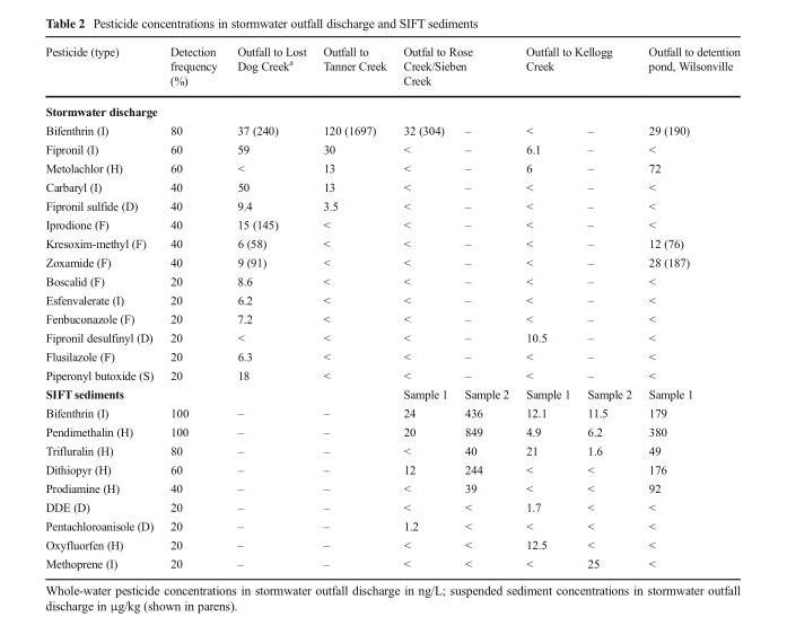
<table><thead><tr><td>Pesticide (type)</td><td>Detection frequency (%)</td><td>Outfall to Lost Dog Creek<sup>a</sup></td><td>Outfall to Tanner Creek</td><td colspan="2">Outfal to Rose Creek/Sieben Creek</td><td colspan="2">Outfall to Kellogg Creek</td><td>Outfall to detention pond, Wilsonville</td></tr><tr><td colspan="9">Stormwater discharge</td></tr><tr><td>Bifenthrin (I)</td><td>80</td><td>37 (240)</td><td>120 (1697)</td><td>32 (304)</td><td>–</td><td>&lt;</td><td>–</td><td>29 (190)</td></tr></thead><tbody><tr><td>Fipronil (I)</td><td>60</td><td>59</td><td>30</td><td>&lt;</td><td>–</td><td>6.1</td><td>–</td><td>&lt;</td></tr><tr><td>Metolachlor (H)</td><td>60</td><td>&lt;</td><td>13</td><td>&lt;</td><td>–</td><td>6</td><td>–</td><td>72</td></tr><tr><td>Carbaryl (I)</td><td>40</td><td>50</td><td>13</td><td>&lt;</td><td>–</td><td>&lt;</td><td>–</td><td>&lt;</td></tr><tr><td>Fipronil sulfide (D)</td><td>40</td><td>9.4</td><td>3.5</td><td>&lt;</td><td>–</td><td>&lt;</td><td>–</td><td>&lt;</td></tr><tr><td>Iprodione (F)</td><td>40</td><td>15 (145)</td><td>&lt;</td><td>&lt;</td><td>–</td><td>&lt;</td><td>–</td><td>&lt;</td></tr><tr><td>Kresoxim-methyl (F)</td><td>40</td><td>6 (58)</td><td>&lt;</td><td>&lt;</td><td>–</td><td>&lt;</td><td>–</td><td>12 (76)</td></tr><tr><td>Zoxamide (F)</td><td>40</td><td>9 (91)</td><td>&lt;</td><td>&lt;</td><td>–</td><td>&lt;</td><td>–</td><td>28 (187)</td></tr><tr><td>Boscalid (F)</td><td>20</td><td>8.6</td><td>&lt;</td><td>&lt;</td><td>–</td><td>&lt;</td><td>–</td><td>&lt;</td></tr><tr><td>Esfenvalerate (I)</td><td>20</td><td>6.2</td><td>&lt;</td><td>&lt;</td><td>–</td><td>&lt;</td><td>–</td><td>&lt;</td></tr><tr><td>Fenbuconazole (F)</td><td>20</td><td>7.2</td><td>&lt;</td><td>&lt;</td><td>–</td><td>&lt;</td><td>–</td><td>&lt;</td></tr><tr><td>Fipronil desulfinyl (D)</td><td>20</td><td>&lt;</td><td>&lt;</td><td>&lt;</td><td>–</td><td>10.5</td><td>–</td><td>&lt;</td></tr><tr><td>Flusilazole (F)</td><td>20</td><td>6.3</td><td>&lt;</td><td>&lt;</td><td>–</td><td>&lt;</td><td>–</td><td>&lt;</td></tr><tr><td>Piperonyl butoxide (S)</td><td>20</td><td>18</td><td>&lt;</td><td>&lt;</td><td>–</td><td>&lt;</td><td>–</td><td>&lt;</td></tr><tr><td>SIFT sediments</td><td></td><td></td><td></td><td>Sample 1</td><td>Sample 2</td><td>Sample 1</td><td>Sample 2</td><td>Sample 1</td></tr><tr><td>Bifenthrin (I)</td><td>100</td><td>–</td><td>–</td><td>24</td><td>436</td><td>12.1</td><td>11.5</td><td>179</td></tr><tr><td>Pendimethalin (H)</td><td>100</td><td>–</td><td>–</td><td>20</td><td>849</td><td>4.9</td><td>6.2</td><td>380</td></tr><tr><td>Trifluralin (H)</td><td>80</td><td>–</td><td>–</td><td>&lt;</td><td>40</td><td>21</td><td>1.6</td><td>49</td></tr><tr><td>Dithiopyr (H)</td><td>60</td><td>–</td><td>–</td><td>12</td><td>244</td><td>&lt;</td><td>&lt;</td><td>176</td></tr><tr><td>Prodiamine (H)</td><td>40</td><td>–</td><td>–</td><td>&lt;</td><td>39</td><td>&lt;</td><td>&lt;</td><td>92</td></tr><tr><td>DDE (D)</td><td>20</td><td>–</td><td>–</td><td>&lt;</td><td>&lt;</td><td>1.7</td><td>&lt;</td><td>&lt;</td></tr><tr><td>Pentachloroanisole (D)</td><td>20</td><td>–</td><td>–</td><td>1.2</td><td>&lt;</td><td>&lt;</td><td>&lt;</td><td>&lt;</td></tr><tr><td>Oxyfluorfen (H)</td><td>20</td><td>–</td><td>–</td><td>&lt;</td><td>&lt;</td><td>12.5</td><td>&lt;</td><td>&lt;</td></tr><tr><td>Methoprene (I)</td><td>20</td><td>–</td><td>–</td><td>&lt;</td><td>&lt;</td><td>&lt;</td><td>25</td><td>&lt;</td></tr></tbody></table>